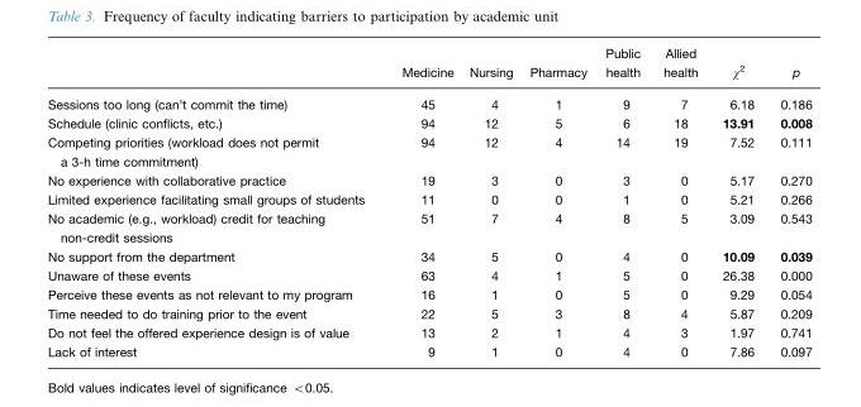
<table><thead><tr><td></td><td>Medicine</td><td>Nursing</td><td>Pharmacy</td><td>Public health</td><td>Allied health</td><td>χ<sup>2</sup></td><td>p</td></tr></thead><tbody><tr><td>Sessions too long (can’t commit the time)</td><td>45</td><td>4</td><td>1</td><td>9</td><td>7</td><td>6.18</td><td>0.186</td></tr><tr><td>Schedule (clinic conflicts, etc.)</td><td>94</td><td>12</td><td>5</td><td>6</td><td>18</td><td>13.91</td><td>0.008</td></tr><tr><td>Competing priorities (workload does not permit a 3-h time commitment)</td><td>94</td><td>12</td><td>4</td><td>14</td><td>19</td><td>7.52</td><td>0.111</td></tr><tr><td>No experience with collaborative practice</td><td>19</td><td>3</td><td>0</td><td>3</td><td>0</td><td>5.17</td><td>0.270</td></tr><tr><td>Limited experience facilitating small groups of students</td><td>11</td><td>0</td><td>0</td><td>1</td><td>0</td><td>5.21</td><td>0.266</td></tr><tr><td>No academic (e.g., workload) credit for teaching non-credit sessions</td><td>51</td><td>7</td><td>4</td><td>8</td><td>5</td><td>3.09</td><td>0.543</td></tr><tr><td>No support from the department</td><td>34</td><td>5</td><td>0</td><td>4</td><td>0</td><td>10.09</td><td>0.039</td></tr><tr><td>Unaware of these events</td><td>63</td><td>4</td><td>1</td><td>5</td><td>0</td><td>26.38</td><td>0.000</td></tr><tr><td>Perceive these events as not relevant to my program</td><td>16</td><td>1</td><td>0</td><td>5</td><td>0</td><td>9.29</td><td>0.054</td></tr><tr><td>Time needed to do training prior to the event</td><td>22</td><td>5</td><td>3</td><td>8</td><td>4</td><td>5.87</td><td>0.209</td></tr><tr><td>Do not feel the offered experience design is of value</td><td>13</td><td>2</td><td>1</td><td>4</td><td>3</td><td>1.97</td><td>0.741</td></tr><tr><td>Lack of interest</td><td>9</td><td>1</td><td>0</td><td>4</td><td>0</td><td>7.86</td><td>0.097</td></tr></tbody></table>